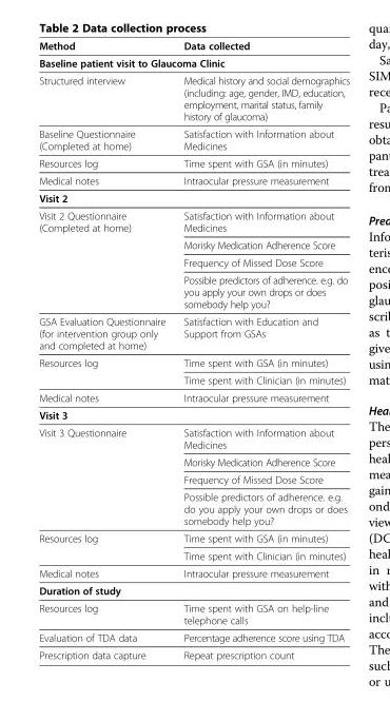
<table><thead><tr><td>Method</td><td>Data collected</td></tr></thead><tbody><tr><td colspan="2">Baseline patient visit to Glaucoma Clinic</td></tr><tr><td>Structured interview</td><td>Medical history and social demographics (including: age, gender, IMD, education, employment, marital status, family history of glaucoma)</td></tr><tr><td>Baseline Questionnaire (Completed at home)</td><td>Satisfaction with Information about Medicines</td></tr><tr><td>Resources log</td><td>Time spent with GSA (in minutes)</td></tr><tr><td>Medical notes</td><td>Intraocular pressure measurement</td></tr><tr><td colspan="2">Visit 2</td></tr><tr><td rowspan="4">Visit 2 Questionnaire (Completed at home)</td><td>Satisfaction with Information about Medicines</td></tr><tr><td>Morisky Medication Adherence Score</td></tr><tr><td>Frequency of Missed Dose Score</td></tr><tr><td>Possible predictors of adherence. e.g. do you apply your own drops or does somebody help you?</td></tr><tr><td>GSA Evaluation Questionnaire (for intervention group only and completed at home)</td><td>Satisfaction with Education and Support from GSAs</td></tr><tr><td rowspan="2">Resources log</td><td>Time spent with GSA (in minutes)</td></tr><tr><td>Time spent with Clinician (in minutes)</td></tr><tr><td>Medical notes</td><td>Intraocular pressure measurement</td></tr><tr><td colspan="2">Visit 3</td></tr><tr><td rowspan="4">Visit 3 Questionnaire</td><td>Satisfaction with Information about Medicines</td></tr><tr><td>Morisky Medication Adherence Score</td></tr><tr><td>Frequency of Missed Dose Score</td></tr><tr><td>Possible predictors of adherence. e.g. do you apply your own drops or does somebody help you?</td></tr><tr><td rowspan="2">Resources log</td><td>Time spent with GSA (in minutes)</td></tr><tr><td>Time spent with Clinician (in minutes)</td></tr><tr><td>Medical notes</td><td>Intraocular pressure measurement</td></tr><tr><td colspan="2">Duration of study</td></tr><tr><td>Resources log</td><td>Time spent with GSA on help-line telephone calls</td></tr><tr><td>Evaluation of TDA data</td><td>Percentage adherence score using TDA</td></tr><tr><td>Prescription data capture</td><td>Repeat prescription count</td></tr></tbody></table>